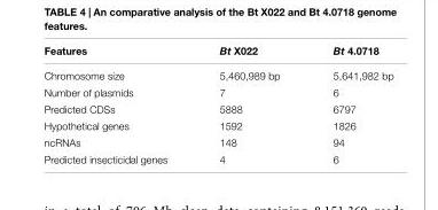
<table><thead><tr><td>Features</td><td>Bt X022</td><td>Bt 4.0718</td></tr></thead><tbody><tr><td>Chromosome size</td><td>5,460,989 bp</td><td>5,641,982 bp</td></tr><tr><td>Number of plasmids</td><td>7</td><td>6</td></tr><tr><td>Predicted CDSs</td><td>5888</td><td>6797</td></tr><tr><td>Hypothetical genes</td><td>1592</td><td>1826</td></tr><tr><td>ncRNAs</td><td>148</td><td>94</td></tr><tr><td>Predicted insecticidal genes</td><td>4</td><td>6</td></tr></tbody></table>